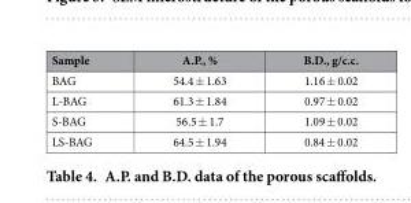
<table><thead><tr><td>Sample</td><td>A.P., %</td><td>B.D., g/c.c.</td></tr></thead><tbody><tr><td>BAG</td><td>54.4 ± 1.63</td><td>1.16 ± 0.02</td></tr><tr><td>L-BAG</td><td>61.3 ± 1.84</td><td>0.97 ± 0.02</td></tr><tr><td>S-BAG</td><td>56.5 ± 1.7</td><td>1.09 ± 0.02</td></tr><tr><td>LS-BAG</td><td>64.5 ± 1.94</td><td>0.84 ± 0.02</td></tr></tbody></table>